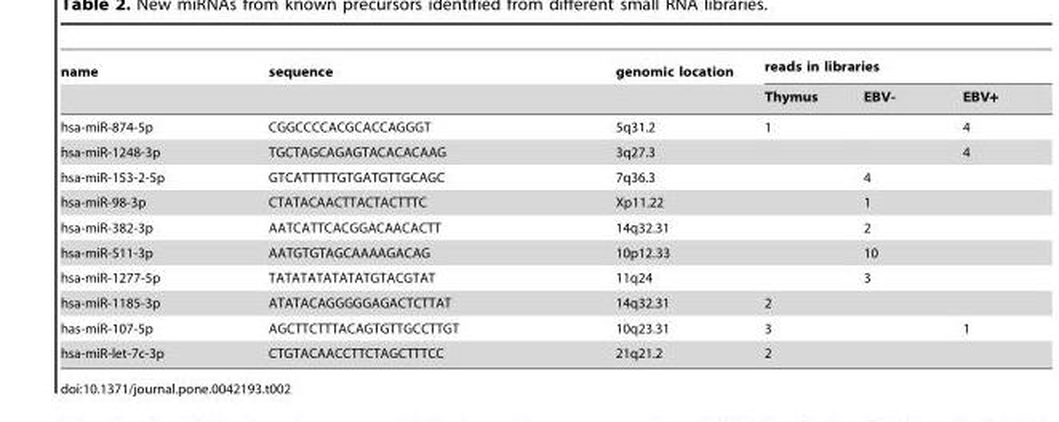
<table><thead><tr><td rowspan="2">name</td><td rowspan="2">sequence</td><td rowspan="2">genomic location</td><td colspan="3">reads in libraries</td></tr><tr><td>Thymus</td><td>EBV-</td><td>EBV+</td></tr></thead><tbody><tr><td>hsa-miR-874-5p</td><td>CGGCCCCACGCACCAGGGT</td><td>5q31.2</td><td>1</td><td></td><td>4</td></tr><tr><td>hsa-miR-1248-3p</td><td>TGCTAGCAGAGTACACACAAG</td><td>3q27.3</td><td></td><td></td><td>4</td></tr><tr><td>hsa-miR-153-2-5p</td><td>GTCATTTTTGTGATGTTGCAGC</td><td>7q36.3</td><td></td><td>4</td><td></td></tr><tr><td>hsa-miR-98-3p</td><td>CTATACAACTTACTACTTTC</td><td>Xp11.22</td><td></td><td>1</td><td></td></tr><tr><td>hsa-miR-382-3p</td><td>AATCATTCACGGACAACACTT</td><td>14q32.31</td><td></td><td>2</td><td></td></tr><tr><td>hsa-miR-511-3p</td><td>AATGTGTAGCAAAAGACAG</td><td>10p12.33</td><td></td><td>10</td><td></td></tr><tr><td>hsa-miR-1277-5p</td><td>TATATATATATATGTACGTAT</td><td>11q24</td><td></td><td>3</td><td></td></tr><tr><td>hsa-miR-1185-3p</td><td>ATATACAGGGGGAGACTCTTAT</td><td>14q32.31</td><td>2</td><td></td><td></td></tr><tr><td>has-miR-107-5p</td><td>AGCTTCTTTACAGTGTTGCCTTGT</td><td>10q23.31</td><td>3</td><td></td><td>1</td></tr><tr><td>hsa-miR-let-7c-3p</td><td>CTGTACAACCTTCTAGCTTTCC</td><td>21q21.2</td><td>2</td><td></td><td></td></tr></tbody></table>